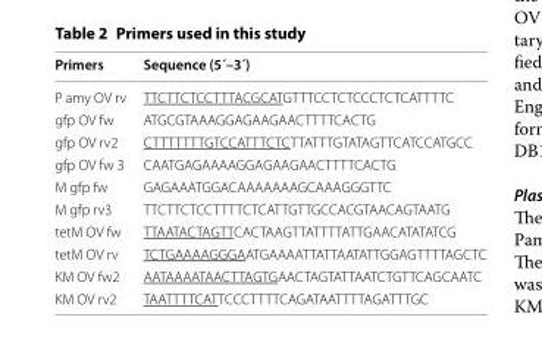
<table><thead><tr><td>Primers</td><td>Sequence (5´–3´)</td></tr></thead><tbody><tr><td>P amy OV rv</td><td>TTCTTCTCCTTTACGCATGTTTCCTCTCCCTCTCATTTTC</td></tr><tr><td>gfp OV fw</td><td>ATGCGTAAAGGAGAAGAACTTTTCACTG</td></tr><tr><td>gfp OV rv2</td><td>CTTTTTTTGTCCATTTCTCTTATTTGTATAGTTCATCCATGCC</td></tr><tr><td>gfp OV fw 3</td><td>CAATGAGAAAAGGAGAAGAACTTTTCACTG</td></tr><tr><td>M gfp fw</td><td>GAGAAATGGACAAAAAAAGCAAAGGGTTC</td></tr><tr><td>M gfp rv3</td><td>TTCTTCTCCTTTTCTCATTGTTGCCACGTAACAGTAATG</td></tr><tr><td>tetM OV fw</td><td>TTAATACTAGTTCACTAAGTTATTTTATTGAACATATATCG</td></tr><tr><td>tetM OV rv</td><td>TCTGAAAAGGGAATGAAAATTATTAATATTGGAGTTTTAGCTC</td></tr><tr><td>KM OV fw2</td><td>AATAAAATAACTTAGTGAACTAGTATTAATCTGTTCAGCAATC</td></tr><tr><td>KM OV rv2</td><td>TAATTTTCATTCCCTTTTCAGATAATTTTAGATTTGC</td></tr></tbody></table>